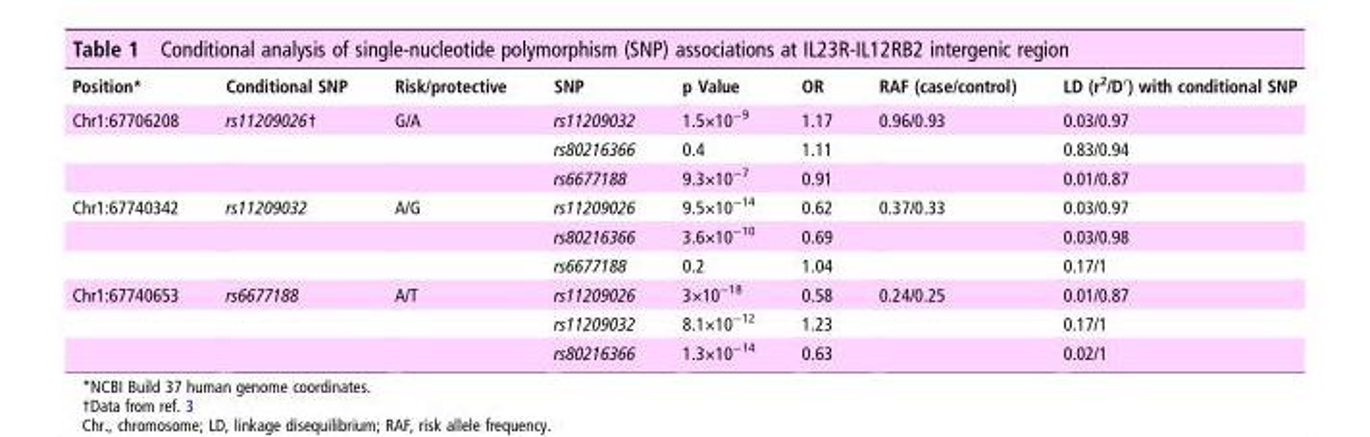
<table><thead><tr><td>Position*</td><td>Conditional SNP</td><td>Risk/protective</td><td>SNP</td><td>p Value</td><td>OR</td><td>RAF (case/control)</td><td>LD (r<sup>2</sup>/D′) with conditional SNP</td></tr></thead><tbody><tr><td rowspan="3">Chr1:67706208</td><td>rs11209026†</td><td>G/A</td><td>rs11209032</td><td>1.5×10<sup>−9</sup></td><td>1.17</td><td>0.96/0.93</td><td>0.03/0.97</td></tr><tr><td></td><td></td><td>rs80216366</td><td>0.4</td><td>1.11</td><td></td><td>0.83/0.94</td></tr><tr><td></td><td></td><td>rs6677188</td><td>9.3×10<sup>−7</sup></td><td>0.91</td><td></td><td>0.01/0.87</td></tr><tr><td rowspan="3">Chr1:67740342</td><td>rs11209032</td><td>A/G</td><td>rs11209026</td><td>9.5×10<sup>−14</sup></td><td>0.62</td><td>0.37/0.33</td><td>0.03/0.97</td></tr><tr><td></td><td></td><td>rs80216366</td><td>3.6×10<sup>−10</sup></td><td>0.69</td><td></td><td>0.03/0.98</td></tr><tr><td></td><td></td><td>rs6677188</td><td>0.2</td><td>1.04</td><td></td><td>0.17/1</td></tr><tr><td rowspan="3">Chr1:67740653</td><td>rs6677188</td><td>A/T</td><td>rs11209026</td><td>3×10<sup>−18</sup></td><td>0.58</td><td>0.24/0.25</td><td>0.01/0.87</td></tr><tr><td></td><td></td><td>rs11209032</td><td>8.1×10<sup>−12</sup></td><td>1.23</td><td></td><td>0.17/1</td></tr><tr><td></td><td></td><td>rs80216366</td><td>1.3×10<sup>−14</sup></td><td>0.63</td><td></td><td>0.02/1</td></tr></tbody></table>